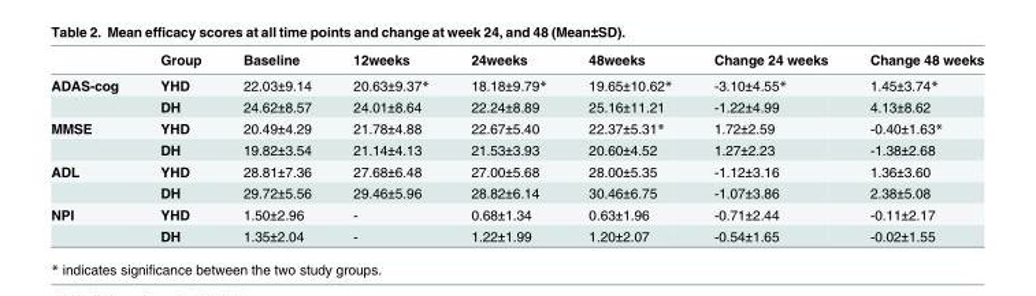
<table><thead><tr><td></td><td>Group</td><td>Baseline</td><td>12weeks</td><td>24weeks</td><td>48weeks</td><td>Change 24 weeks</td><td>Change 48 weeks</td></tr></thead><tbody><tr><td rowspan="2">ADAS-cog</td><td>YHD</td><td>22.03±9.14</td><td>20.63±9.37*</td><td>18.18±9.79*</td><td>19.65±10.62*</td><td>-3.10±4.55*</td><td>1.45±3.74*</td></tr><tr><td>DH</td><td>24.62±8.57</td><td>24.01±8.64</td><td>22.24±8.89</td><td>25.16±11.21</td><td>-1.22±4.99</td><td>4.13±8.62</td></tr><tr><td rowspan="2">MMSE</td><td>YHD</td><td>20.49±4.29</td><td>21.78±4.88</td><td>22.67±5.40</td><td>22.37±5.31*</td><td>1.72±2.59</td><td>-0.40±1.63*</td></tr><tr><td>DH</td><td>19.82±3.54</td><td>21.14±4.13</td><td>21.53±3.93</td><td>20.60±4.52</td><td>1.27±2.23</td><td>-1.38±2.68</td></tr><tr><td rowspan="2">ADL</td><td>YHD</td><td>28.81±7.36</td><td>27.68±6.48</td><td>27.00±5.68</td><td>28.00±5.35</td><td>-1.12±3.16</td><td>1.36±3.60</td></tr><tr><td>DH</td><td>29.72±5.56</td><td>29.46±5.96</td><td>28.82±6.14</td><td>30.46±6.75</td><td>-1.07±3.86</td><td>2.38±5.08</td></tr><tr><td rowspan="2">NPI</td><td>YHD</td><td>1.50±2.96</td><td>-</td><td>0.68±1.34</td><td>0.63±1.96</td><td>-0.71±2.44</td><td>-0.11±2.17</td></tr><tr><td>DH</td><td>1.35±2.04</td><td>-</td><td>1.22±1.99</td><td>1.20±2.07</td><td>-0.54±1.65</td><td>-0.02±1.55</td></tr></tbody></table>